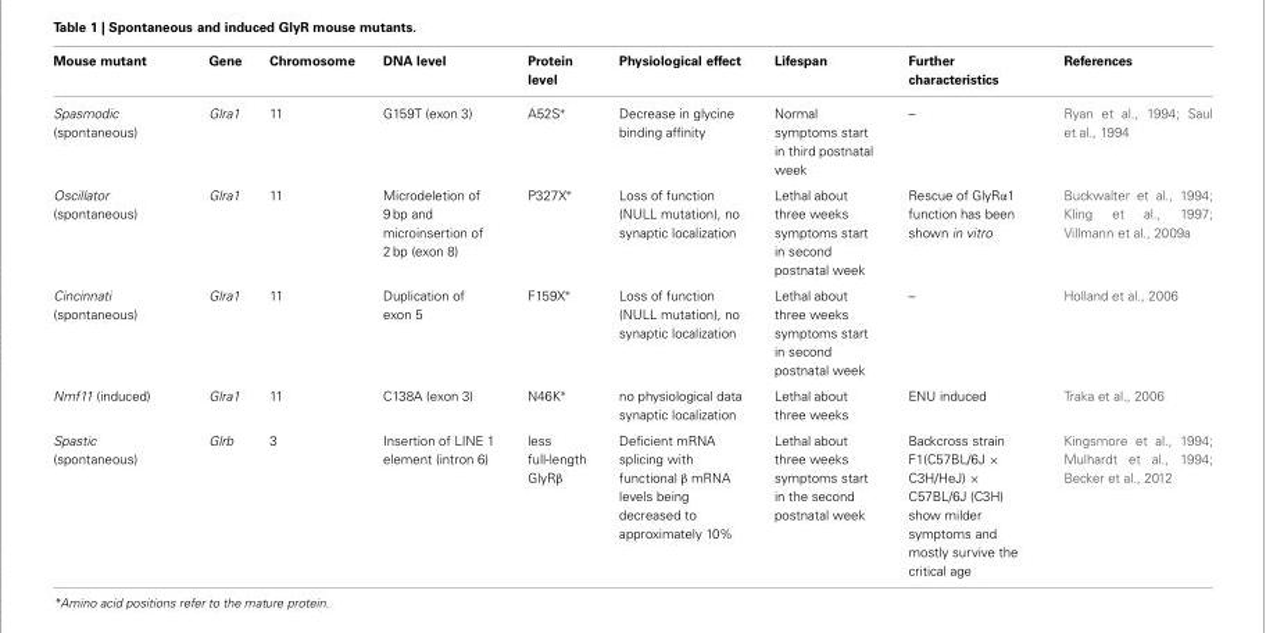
<table><thead><tr><td>Mouse mutant</td><td>Gene</td><td>Chromosome</td><td>DNA level</td><td>Protein level</td><td>Physiological effect</td><td>Lifespan</td><td>Further characteristics</td><td>References</td></tr></thead><tbody><tr><td>Spasmodic (spontaneous)</td><td>Glra1</td><td>11</td><td>G159T (exon 3)</td><td>A52S∗</td><td>Decrease in glycine binding affinity</td><td>Normal symptoms start in third postnatal week</td><td>–</td><td>Ryan et al., 1994; Saul et al., 1994</td></tr><tr><td>Oscillator (spontaneous)</td><td>Glra1</td><td>11</td><td>Microdeletion of 9 bp and microinsertion of 2 bp (exon 8)</td><td>P327X∗</td><td>Loss of function (NULL mutation), no synaptic localization</td><td>Lethal about three weeks symptoms start in second postnatal week</td><td>Rescue of GlyRα1 function has been shown in vitro</td><td>Buckwalter et al., 1994; Kling et al., 1997; Villmann et al., 2009a</td></tr><tr><td>Cincinnati (spontaneous)</td><td>Glra1</td><td>11</td><td>Duplication of exon 5</td><td>F159X∗</td><td>Loss of function (NULL mutation), no synaptic localization</td><td>Lethal about three weeks symptoms start in second postnatal week</td><td>–</td><td>Holland et al., 2006</td></tr><tr><td>Nmf11 (induced)</td><td>Glra1</td><td>11</td><td>C138A (exon 3)</td><td>N46K∗</td><td>no physiological data synaptic localization</td><td>Lethal about three weeks</td><td>ENU induced</td><td>Traka et al., 2006</td></tr><tr><td>Spastic (spontaneous)</td><td>Glrb</td><td>3</td><td>Insertion of LINE 1 element (intron 6)</td><td>less full-length GlyRβ</td><td>Deficient mRNA splicing with functional β mRNA levels being decreased to approximately 10%</td><td>Lethal about three weeks symptoms start in the second postnatal week</td><td>Backcross strain F1(C57BL/6J × C3H/HeJ) × C57BL/6J (C3H) show milder symptoms and mostly survive the critical age</td><td>Kingsmore et al., 1994; Mulhardt et al., 1994; Becker et al., 2012</td></tr></tbody></table>